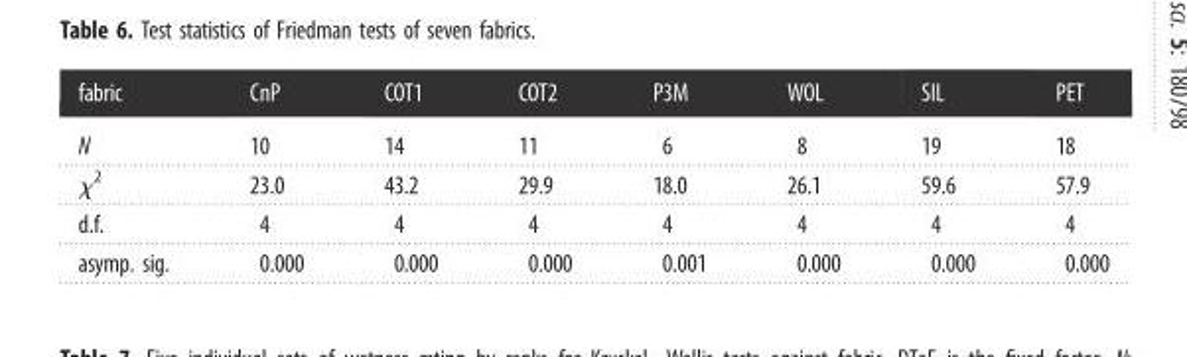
<table><thead><tr><td>fabric</td><td>CnP</td><td>COT1</td><td>COT2</td><td>P3M</td><td>WOL</td><td>SIL</td><td>PET</td></tr></thead><tbody><tr><td>N</td><td>10</td><td>14</td><td>11</td><td>6</td><td>8</td><td>19</td><td>18</td></tr><tr><td>χ<sup>2</sup></td><td>23.0</td><td>43.2</td><td>29.9</td><td>18.0</td><td>26.1</td><td>59.6</td><td>57.9</td></tr><tr><td>d.f.</td><td>4</td><td>4</td><td>4</td><td>4</td><td>4</td><td>4</td><td>4</td></tr><tr><td>asymp. sig.</td><td>0.000</td><td>0.000</td><td>0.000</td><td>0.001</td><td>0.000</td><td>0.000</td><td>0.000</td></tr></tbody></table>